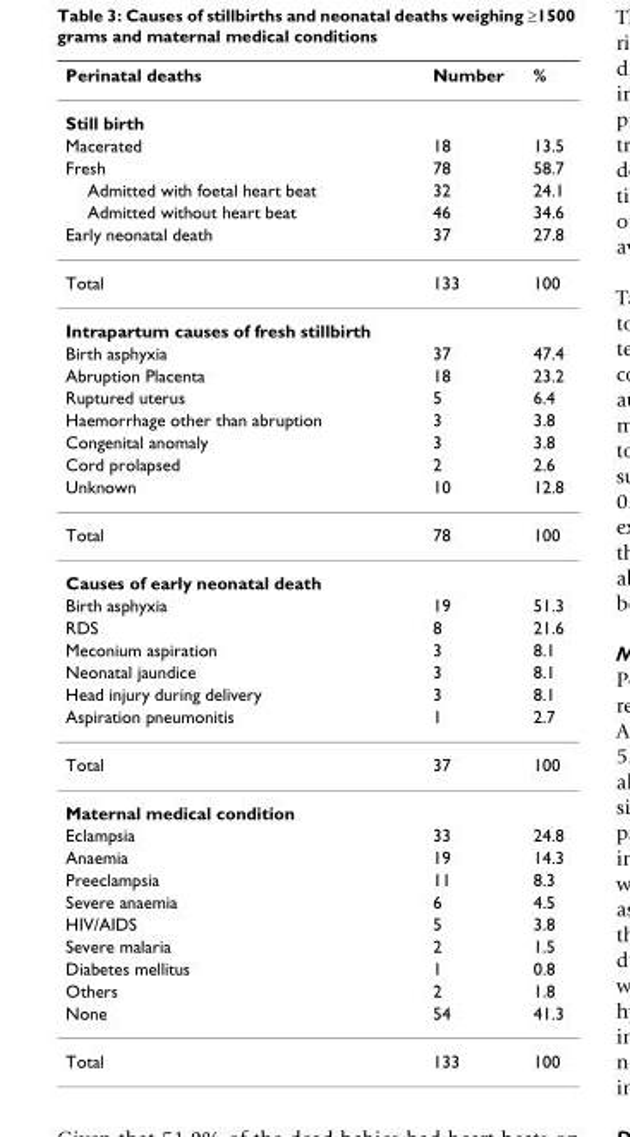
<table><thead><tr><td>Perinatal deaths</td><td>Number</td><td>%</td></tr></thead><tbody><tr><td colspan="3">Still birth</td></tr><tr><td>Macerated</td><td>18</td><td>13.5</td></tr><tr><td>Fresh</td><td>78</td><td>58.7</td></tr><tr><td>Admitted with foetal heart beat</td><td>32</td><td>24.1</td></tr><tr><td>Admitted without heart beat</td><td>46</td><td>34.6</td></tr><tr><td>Early neonatal death</td><td>37</td><td>27.8</td></tr><tr><td>Total</td><td>133</td><td>100</td></tr><tr><td colspan="3">Intrapartum causes of fresh stillbirth</td></tr><tr><td>Birth asphyxia</td><td>37</td><td>47.4</td></tr><tr><td>Abruption Placenta</td><td>18</td><td>23.2</td></tr><tr><td>Ruptured uterus</td><td>5</td><td>6.4</td></tr><tr><td>Haemorrhage other than abruption</td><td>3</td><td>3.8</td></tr><tr><td>Congenital anomaly</td><td>3</td><td>3.8</td></tr><tr><td>Cord prolapsed</td><td>2</td><td>2.6</td></tr><tr><td>Unknown</td><td>10</td><td>12.8</td></tr><tr><td>Total</td><td>78</td><td>100</td></tr><tr><td colspan="3">Causes of early neonatal death</td></tr><tr><td>Birth asphyxia</td><td>19</td><td>51.3</td></tr><tr><td>RDS</td><td>8</td><td>21.6</td></tr><tr><td>Meconium aspiration</td><td>3</td><td>8.1</td></tr><tr><td>Neonatal jaundice</td><td>3</td><td>8.1</td></tr><tr><td>Head injury during delivery</td><td>3</td><td>8.1</td></tr><tr><td>Aspiration pneumonitis</td><td>1</td><td>2.7</td></tr><tr><td>Total</td><td>37</td><td>100</td></tr><tr><td colspan="3">Maternal medical condition</td></tr><tr><td>Eclampsia</td><td>33</td><td>24.8</td></tr><tr><td>Anaemia</td><td>19</td><td>14.3</td></tr><tr><td>Preeclampsia</td><td>11</td><td>8.3</td></tr><tr><td>Severe anaemia</td><td>6</td><td>4.5</td></tr><tr><td>HIV/AIDS</td><td>5</td><td>3.8</td></tr><tr><td>Severe malaria</td><td>2</td><td>1.5</td></tr><tr><td>Diabetes mellitus</td><td>1</td><td>0.8</td></tr><tr><td>Others</td><td>2</td><td>1.8</td></tr><tr><td>None</td><td>54</td><td>41.3</td></tr><tr><td>Total</td><td>133</td><td>100</td></tr></tbody></table>